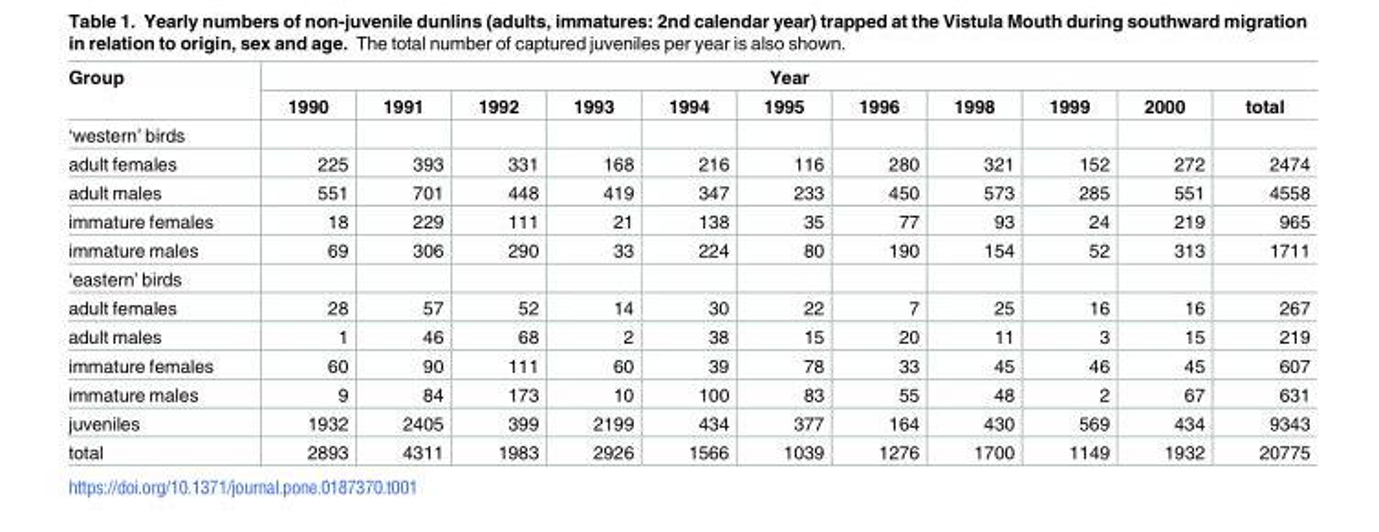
<table><thead><tr><td rowspan="2">Group</td><td colspan="11">Year</td></tr><tr><td>1990</td><td>1991</td><td>1992</td><td>1993</td><td>1994</td><td>1995</td><td>1996</td><td>1998</td><td>1999</td><td>2000</td><td>total</td></tr></thead><tbody><tr><td colspan="12">‘western’ birds</td></tr><tr><td>adult females</td><td>225</td><td>393</td><td>331</td><td>168</td><td>216</td><td>116</td><td>280</td><td>321</td><td>152</td><td>272</td><td>2474</td></tr><tr><td>adult males</td><td>551</td><td>701</td><td>448</td><td>419</td><td>347</td><td>233</td><td>450</td><td>573</td><td>285</td><td>551</td><td>4558</td></tr><tr><td>immature females</td><td>18</td><td>229</td><td>111</td><td>21</td><td>138</td><td>35</td><td>77</td><td>93</td><td>24</td><td>219</td><td>965</td></tr><tr><td>immature males</td><td>69</td><td>306</td><td>290</td><td>33</td><td>224</td><td>80</td><td>190</td><td>154</td><td>52</td><td>313</td><td>1711</td></tr><tr><td colspan="12">‘eastern’ birds</td></tr><tr><td>adult females</td><td>28</td><td>57</td><td>52</td><td>14</td><td>30</td><td>22</td><td>7</td><td>25</td><td>16</td><td>16</td><td>267</td></tr><tr><td>adult males</td><td>1</td><td>46</td><td>68</td><td>2</td><td>38</td><td>15</td><td>20</td><td>11</td><td>3</td><td>15</td><td>219</td></tr><tr><td>immature females</td><td>60</td><td>90</td><td>111</td><td>60</td><td>39</td><td>78</td><td>33</td><td>45</td><td>46</td><td>45</td><td>607</td></tr><tr><td>immature males</td><td>9</td><td>84</td><td>173</td><td>10</td><td>100</td><td>83</td><td>55</td><td>48</td><td>2</td><td>67</td><td>631</td></tr><tr><td>juveniles</td><td>1932</td><td>2405</td><td>399</td><td>2199</td><td>434</td><td>377</td><td>164</td><td>430</td><td>569</td><td>434</td><td>9343</td></tr><tr><td>total</td><td>2893</td><td>4311</td><td>1983</td><td>2926</td><td>1566</td><td>1039</td><td>1276</td><td>1700</td><td>1149</td><td>1932</td><td>20775</td></tr></tbody></table>